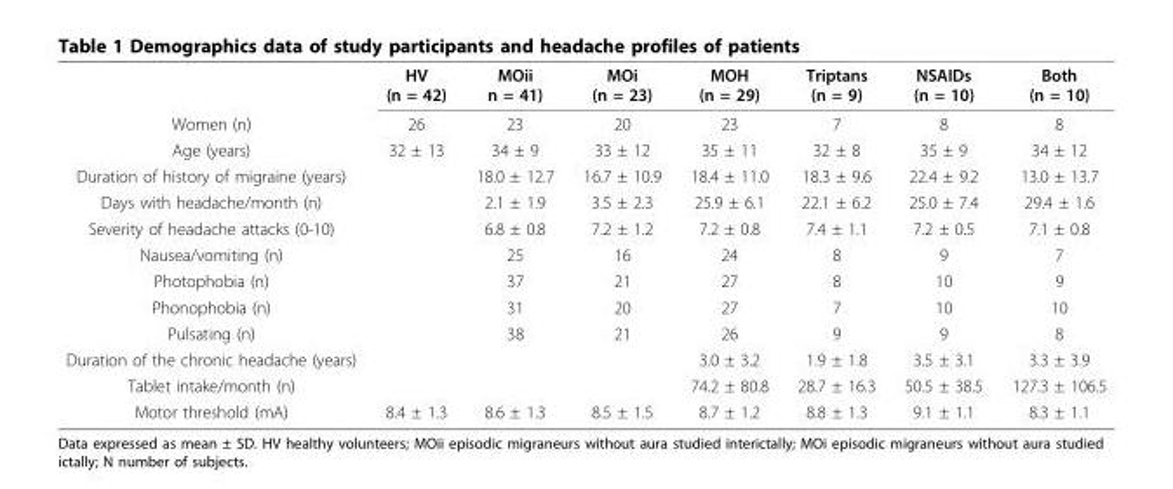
<table><thead><tr><td></td><td>HV (n = 42)</td><td>MOii n = 41)</td><td>MOi (n = 23)</td><td>MOH (n = 29)</td><td>Triptans (n = 9)</td><td>NSAIDs (n = 10)</td><td>Both (n = 10)</td></tr></thead><tbody><tr><td>Women (n)</td><td>26</td><td>23</td><td>20</td><td>23</td><td>7</td><td>8</td><td>8</td></tr><tr><td>Age (years)</td><td>32 ± 13</td><td>34 ± 9</td><td>33 ± 12</td><td>35 ± 11</td><td>32 ± 8</td><td>35 ± 9</td><td>34 ± 12</td></tr><tr><td>Duration of history of migraine (years)</td><td></td><td>18.0 ± 12.7</td><td>16.7 ± 10.9</td><td>18.4 ± 11.0</td><td>18.3 ± 9.6</td><td>22.4 ± 9.2</td><td>13.0 ± 13.7</td></tr><tr><td>Days with headache/month (n)</td><td></td><td>2.1 ± 1.9</td><td>3.5 ± 2.3</td><td>25.9 ± 6.1</td><td>22.1 ± 6.2</td><td>25.0 ± 7.4</td><td>29.4 ± 1.6</td></tr><tr><td>Severity of headache attacks (0-10)</td><td></td><td>6.8 ± 0.8</td><td>7.2 ± 1.2</td><td>7.2 ± 0.8</td><td>7.4 ± 1.1</td><td>7.2 ± 0.5</td><td>7.1 ± 0.8</td></tr><tr><td>Nausea/vomiting (n)</td><td></td><td>25</td><td>16</td><td>24</td><td>8</td><td>9</td><td>7</td></tr><tr><td>Photophobia (n)</td><td></td><td>37</td><td>21</td><td>27</td><td>8</td><td>10</td><td>9</td></tr><tr><td>Phonophobia (n)</td><td></td><td>31</td><td>20</td><td>27</td><td>7</td><td>10</td><td>10</td></tr><tr><td>Pulsating (n)</td><td></td><td>38</td><td>21</td><td>26</td><td>9</td><td>9</td><td>8</td></tr><tr><td>Duration of the chronic headache (years)</td><td></td><td></td><td></td><td>3.0 ± 3.2</td><td>1.9 ± 1.8</td><td>3.5 ± 3.1</td><td>3.3 ± 3.9</td></tr><tr><td>Tablet intake/month (n)</td><td></td><td></td><td></td><td>74.2 ± 80.8</td><td>28.7 ± 16.3</td><td>50.5 ± 38.5</td><td>127.3 ± 106.5</td></tr><tr><td>Motor threshold (mA)</td><td>8.4 ± 1.3</td><td>8.6 ± 1.3</td><td>8.5 ± 1.5</td><td>8.7 ± 1.2</td><td>8.8 ± 1.3</td><td>9.1 ± 1.1</td><td>8.3 ± 1.1</td></tr></tbody></table>